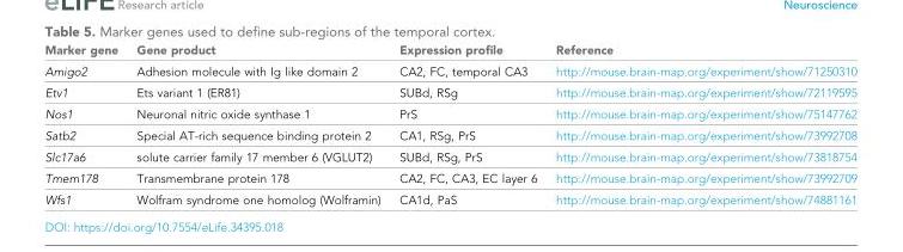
<table><thead><tr><td>Marker gene</td><td>Gene product</td><td>Expression profile</td><td>Reference</td></tr></thead><tbody><tr><td>Amigo2</td><td>Adhesion molecule with Ig like domain 2</td><td>CA2, FC, temporal CA3</td><td>http://mouse.brain-map.org/experiment/show/71250310</td></tr><tr><td>Etv1</td><td>Ets variant 1 (ER81)</td><td>SUBd, RSg</td><td>http://mouse.brain-map.org/experiment/show/72119595</td></tr><tr><td>Nos1</td><td>Neuronal nitric oxide synthase 1</td><td>PrS</td><td>http://mouse.brain-map.org/experiment/show/75147762</td></tr><tr><td>Satb2</td><td>Special AT-rich sequence binding protein 2</td><td>CA1, RSg, PrS</td><td>http://mouse.brain-map.org/experiment/show/73992708</td></tr><tr><td>Slc17a6</td><td>solute carrier family 17 member 6 (VGLUT2)</td><td>SUBd, RSg, PrS</td><td>http://mouse.brain-map.org/experiment/show/73818754</td></tr><tr><td>Tmem178</td><td>Transmembrane protein 178</td><td>CA2, FC, CA3, EC layer 6</td><td>http://mouse.brain-map.org/experiment/show/73992709</td></tr><tr><td>Wfs1</td><td>Wolfram syndrome one homolog (Wolframin)</td><td>CA1d, PaS</td><td>http://mouse.brain-map.org/experiment/show/74881161</td></tr></tbody></table>